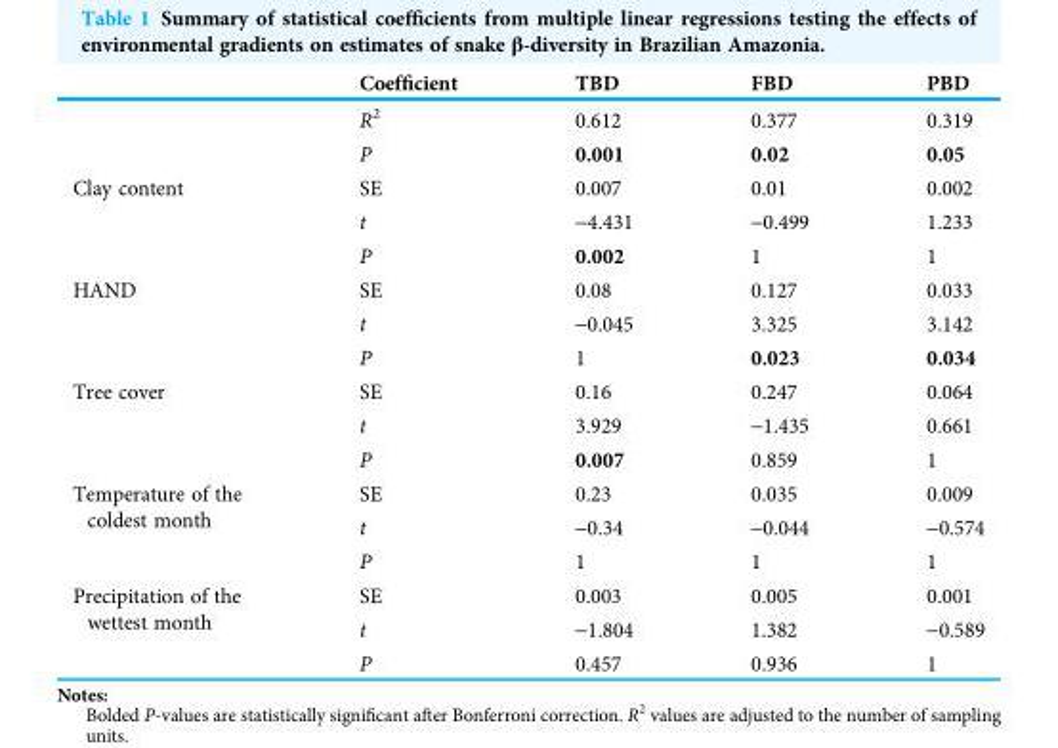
<table><thead><tr><td></td><td>Coefficient</td><td>TBD</td><td>FBD</td><td>PBD</td></tr></thead><tbody><tr><td rowspan="2"></td><td>R<sup>2</sup></td><td>0.612</td><td>0.377</td><td>0.319</td></tr><tr><td>P</td><td>0.001</td><td>0.02</td><td>0.05</td></tr><tr><td rowspan="3">Clay content</td><td>SE</td><td>0.007</td><td>0.01</td><td>0.002</td></tr><tr><td>t</td><td>-4.431</td><td>-0.499</td><td>1.233</td></tr><tr><td>P</td><td>0.002</td><td>1</td><td>1</td></tr><tr><td rowspan="3">HAND</td><td>SE</td><td>0.08</td><td>0.127</td><td>0.033</td></tr><tr><td>t</td><td>-0.045</td><td>3.325</td><td>3.142</td></tr><tr><td>P</td><td>1</td><td>0.023</td><td>0.034</td></tr><tr><td rowspan="3">Tree cover</td><td>SE</td><td>0.16</td><td>0.247</td><td>0.064</td></tr><tr><td>t</td><td>3.929</td><td>-1.435</td><td>0.661</td></tr><tr><td>P</td><td>0.007</td><td>0.859</td><td>1</td></tr><tr><td rowspan="3">Temperature of the coldest month</td><td>SE</td><td>0.23</td><td>0.035</td><td>0.009</td></tr><tr><td>t</td><td>-0.34</td><td>-0.044</td><td>-0.574</td></tr><tr><td>P</td><td>1</td><td>1</td><td>1</td></tr><tr><td rowspan="3">Precipitation of the wettest month</td><td>SE</td><td>0.003</td><td>0.005</td><td>0.001</td></tr><tr><td>t</td><td>-1.804</td><td>1.382</td><td>-0.589</td></tr><tr><td>P</td><td>0.457</td><td>0.936</td><td>1</td></tr></tbody></table>